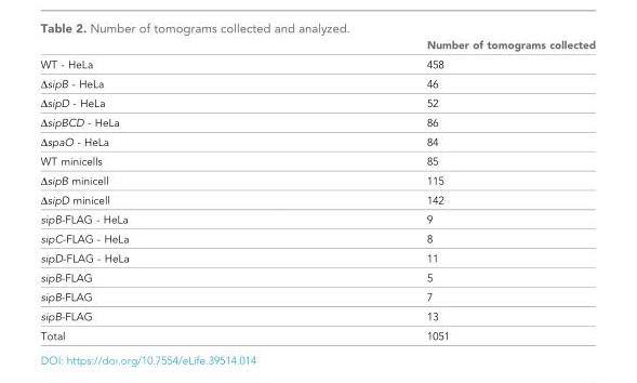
<table><thead><tr><td></td><td>Number of tomograms collected</td></tr></thead><tbody><tr><td>WT - HeLa</td><td>458</td></tr><tr><td>ΔsipB - HeLa</td><td>46</td></tr><tr><td>ΔsipD - HeLa</td><td>52</td></tr><tr><td>ΔsipBCD - HeLa</td><td>86</td></tr><tr><td>ΔspaO - HeLa</td><td>84</td></tr><tr><td>WT minicells</td><td>85</td></tr><tr><td>ΔsipB minicell</td><td>115</td></tr><tr><td>ΔsipD minicell</td><td>142</td></tr><tr><td>sipB-FLAG - HeLa</td><td>9</td></tr><tr><td>sipC-FLAG - HeLa</td><td>8</td></tr><tr><td>sipD-FLAG - HeLa</td><td>11</td></tr><tr><td>sipB-FLAG</td><td>5</td></tr><tr><td>sipB-FLAG</td><td>7</td></tr><tr><td>sipB-FLAG</td><td>13</td></tr><tr><td>Total</td><td>1051</td></tr></tbody></table>